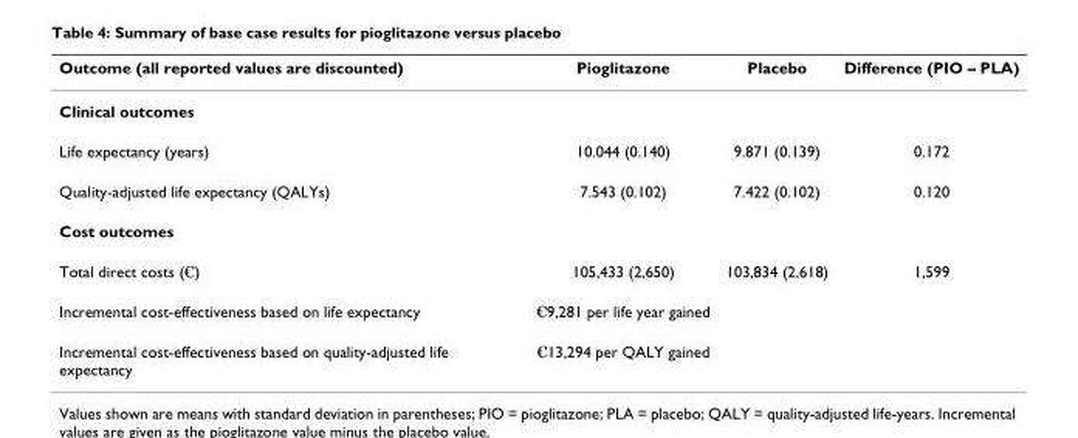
<table><thead><tr><td>Outcome (all reported values are discounted)</td><td>Pioglitazone</td><td>Placebo</td><td>Difference (PIO – PLA)</td></tr></thead><tbody><tr><td colspan="4">Clinical outcomes</td></tr><tr><td>Life expectancy (years)</td><td>10.044 (0.140)</td><td>9.871 (0.139)</td><td>0.172</td></tr><tr><td>Quality-adjusted life expectancy (QALYs)</td><td>7.543 (0.102)</td><td>7.422 (0.102)</td><td>0.120</td></tr><tr><td colspan="4">Cost outcomes</td></tr><tr><td>Total direct costs (€)</td><td>105,433 (2,650)</td><td>103,834 (2,618)</td><td>1,599</td></tr><tr><td>Incremental cost-effectiveness based on life expectancy</td><td>€9,281 per life year gained</td><td></td><td></td></tr><tr><td>Incremental cost-effectiveness based on quality-adjusted life expectancy</td><td>€13,294 per QALY gained</td><td></td><td></td></tr></tbody></table>